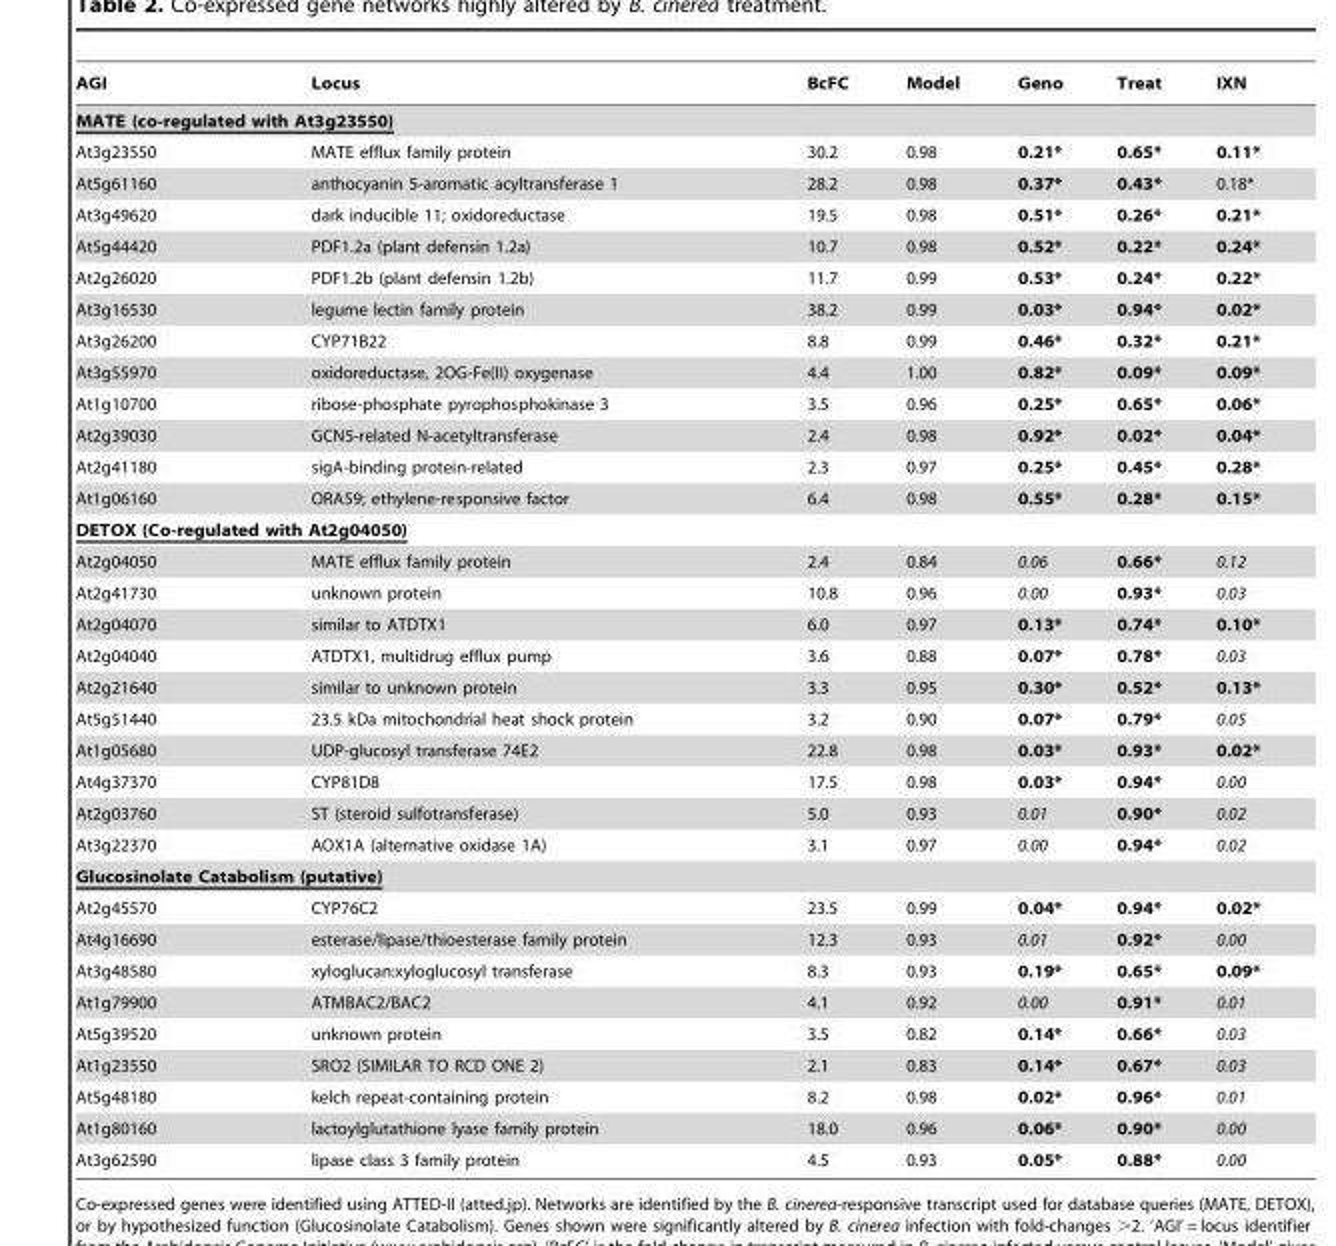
<table><thead><tr><td>AGI</td><td>Locus</td><td>BcFC</td><td>Model</td><td>Geno</td><td>Treat</td><td>IXN</td></tr></thead><tbody><tr><td colspan="7">MATE (co-regulated with At3g23550)</td></tr><tr><td>At3g23550</td><td>MATE efflux family protein</td><td>30.2</td><td>0.98</td><td>0.21*</td><td>0.65*</td><td>0.11*</td></tr><tr><td>At5g61160</td><td>anthocyanin 5-aromatic acyltransferase 1</td><td>28.2</td><td>0.98</td><td>0.37*</td><td>0.43*</td><td>0.18*</td></tr><tr><td>At3g49620</td><td>dark inducible 11; oxidoreductase</td><td>19.5</td><td>0.98</td><td>0.51*</td><td>0.26*</td><td>0.21*</td></tr><tr><td>At5g44420</td><td>PDF1.2a (plant defensin 1.2a)</td><td>10.7</td><td>0.98</td><td>0.52*</td><td>0.22*</td><td>0.24*</td></tr><tr><td>At2g26020</td><td>PDF1.2b (plant defensin 1.2b)</td><td>11.7</td><td>0.99</td><td>0.53*</td><td>0.24*</td><td>0.22*</td></tr><tr><td>At3g16530</td><td>legume lectin family protein</td><td>38.2</td><td>0.99</td><td>0.03*</td><td>0.94*</td><td>0.02*</td></tr><tr><td>At3g26200</td><td>CYP71B22</td><td>8.8</td><td>0.99</td><td>0.46*</td><td>0.32*</td><td>0.21*</td></tr><tr><td>At3g55970</td><td>oxidoreductase, 2OG-Fe(II) oxygenase</td><td>4.4</td><td>1.00</td><td>0.82*</td><td>0.09*</td><td>0.09*</td></tr><tr><td>At1g10700</td><td>ribose-phosphate pyrophosphokinase 3</td><td>3.5</td><td>0.96</td><td>0.25*</td><td>0.65*</td><td>0.06*</td></tr><tr><td>At2g39030</td><td>GCN5-related N-acetyltransferase</td><td>2.4</td><td>0.98</td><td>0.92*</td><td>0.02*</td><td>0.04*</td></tr><tr><td>At2g41180</td><td>sigA-binding protein-related</td><td>2.3</td><td>0.97</td><td>0.25*</td><td>0.45*</td><td>0.28*</td></tr><tr><td>At1g06160</td><td>ORA59; ethylene-responsive factor</td><td>6.4</td><td>0.98</td><td>0.55*</td><td>0.28*</td><td>0.15*</td></tr><tr><td colspan="7">DETOX (Co-regulated with At2g04050)</td></tr><tr><td>At2g04050</td><td>MATE efflux family protein</td><td>2.4</td><td>0.84</td><td>0.06</td><td>0.66*</td><td>0.12</td></tr><tr><td>At2g41730</td><td>unknown protein</td><td>10.8</td><td>0.96</td><td>0.00</td><td>0.93*</td><td>0.03</td></tr><tr><td>At2g04070</td><td>similar to ATDTX1</td><td>6.0</td><td>0.97</td><td>0.13*</td><td>0.74*</td><td>0.10*</td></tr><tr><td>At2g04040</td><td>ATDTX1, multidrug efflux pump</td><td>3.6</td><td>0.88</td><td>0.07*</td><td>0.78*</td><td>0.03</td></tr><tr><td>At2g21640</td><td>similar to unknown protein</td><td>3.3</td><td>0.95</td><td>0.30*</td><td>0.52*</td><td>0.13*</td></tr><tr><td>At5g51440</td><td>23.5 kDa mitochondrial heat shock protein</td><td>3.2</td><td>0.90</td><td>0.07*</td><td>0.79*</td><td>0.05</td></tr><tr><td>At1g05680</td><td>UDP-glucosyl transferase 74E2</td><td>22.8</td><td>0.98</td><td>0.03*</td><td>0.93*</td><td>0.02*</td></tr><tr><td>At4g37370</td><td>CYP81D8</td><td>17.5</td><td>0.98</td><td>0.03*</td><td>0.94*</td><td>0.00</td></tr><tr><td>At2g03760</td><td>ST (steroid sulfotransferase)</td><td>5.0</td><td>0.93</td><td>0.01</td><td>0.90*</td><td>0.02</td></tr><tr><td>At3g22370</td><td>AOX1A (alternative oxidase 1A)</td><td>3.1</td><td>0.97</td><td>0.00</td><td>0.94*</td><td>0.02</td></tr><tr><td colspan="7">Glucosinolate Catabolism (putative)</td></tr><tr><td>At2g45570</td><td>CYP76C2</td><td>23.5</td><td>0.99</td><td>0.04*</td><td>0.94*</td><td>0.02*</td></tr><tr><td>At4g16690</td><td>esterase/lipase/thioesterase family protein</td><td>12.3</td><td>0.93</td><td>0.01</td><td>0.92*</td><td>0.00</td></tr><tr><td>At3g48580</td><td>xyloglucan:xyloglucosyl transferase</td><td>8.3</td><td>0.93</td><td>0.19*</td><td>0.65*</td><td>0.09*</td></tr><tr><td>At1g79900</td><td>ATMBAC2/BAC2</td><td>4.1</td><td>0.92</td><td>0.00</td><td>0.91*</td><td>0.01</td></tr><tr><td>At5g39520</td><td>unknown protein</td><td>3.5</td><td>0.82</td><td>0.14*</td><td>0.66*</td><td>0.03</td></tr><tr><td>At1g23550</td><td>SRO2 (SIMILAR TO RCD ONE 2)</td><td>2.1</td><td>0.83</td><td>0.14*</td><td>0.67*</td><td>0.03</td></tr><tr><td>At5g48180</td><td>kelch repeat-containing protein</td><td>8.2</td><td>0.98</td><td>0.02*</td><td>0.96*</td><td>0.01</td></tr><tr><td>At1g80160</td><td>lactoylglutathione lyase family protein</td><td>18.0</td><td>0.96</td><td>0.06*</td><td>0.90*</td><td>0.00</td></tr><tr><td>At3g62590</td><td>lipase class 3 family protein</td><td>4.5</td><td>0.93</td><td>0.05*</td><td>0.88*</td><td>0.00</td></tr></tbody></table>